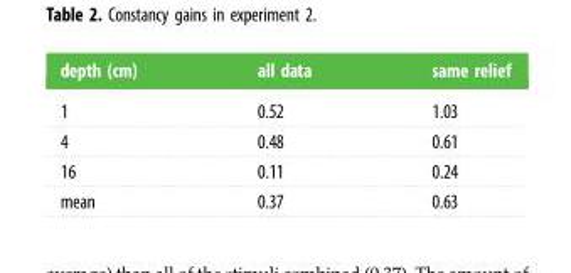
<table><thead><tr><td>depth (cm)</td><td>all data</td><td>same relief</td></tr></thead><tbody><tr><td>1</td><td>0.52</td><td>1.03</td></tr><tr><td>4</td><td>0.48</td><td>0.61</td></tr><tr><td>16</td><td>0.11</td><td>0.24</td></tr><tr><td>mean</td><td>0.37</td><td>0.63</td></tr></tbody></table>